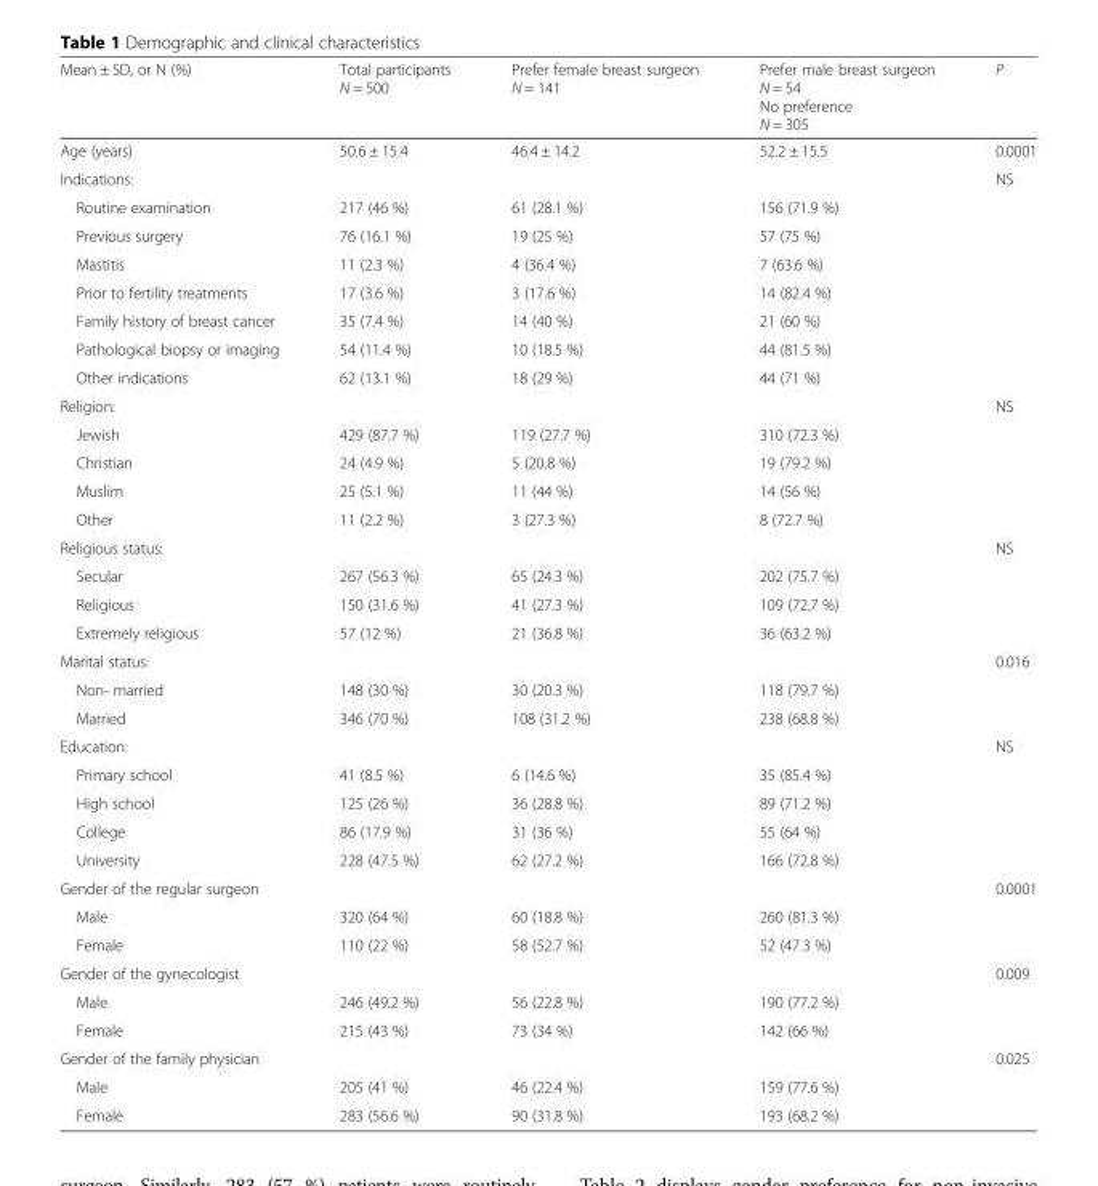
<table><thead><tr><td>Mean ± SD, or N (%)</td><td>Total participants N = 500</td><td>Prefer female breast surgeon N = 141</td><td>Prefer male breast surgeon N = 54 No preference N = 305</td><td>P</td></tr></thead><tbody><tr><td>Age (years)</td><td>50.6 ± 15.4</td><td>46.4 ± 14.2</td><td>52.2 ± 15.5</td><td>0.0001</td></tr><tr><td>Indications:</td><td></td><td></td><td></td><td>NS</td></tr><tr><td>Routine examination</td><td>217 (46 %)</td><td>61 (28.1 %)</td><td>156 (71.9 %)</td><td></td></tr><tr><td>Previous surgery</td><td>76 (16.1 %)</td><td>19 (25 %)</td><td>57 (75 %)</td><td></td></tr><tr><td>Mastitis</td><td>11 (2.3 %)</td><td>4 (36.4 %)</td><td>7 (63.6 %)</td><td></td></tr><tr><td>Prior to fertility treatments</td><td>17 (3.6 %)</td><td>3 (17.6 %)</td><td>14 (82.4 %)</td><td></td></tr><tr><td>Family history of breast cancer</td><td>35 (7.4 %)</td><td>14 (40 %)</td><td>21 (60 %)</td><td></td></tr><tr><td>Pathological biopsy or imaging</td><td>54 (11.4 %)</td><td>10 (18.5 %)</td><td>44 (81.5 %)</td><td></td></tr><tr><td>Other indications</td><td>62 (13.1 %)</td><td>18 (29 %)</td><td>44 (71 %)</td><td></td></tr><tr><td>Religion:</td><td></td><td></td><td></td><td>NS</td></tr><tr><td>Jewish</td><td>429 (87.7 %)</td><td>119 (27.7 %)</td><td>310 (72.3 %)</td><td></td></tr><tr><td>Christian</td><td>24 (4.9 %)</td><td>5 (20.8 %)</td><td>19 (79.2 %)</td><td></td></tr><tr><td>Muslim</td><td>25 (5.1 %)</td><td>11 (44 %)</td><td>14 (56 %)</td><td></td></tr><tr><td>Other</td><td>11 (2.2 %)</td><td>3 (27.3 %)</td><td>8 (72.7 %)</td><td></td></tr><tr><td>Religious status:</td><td></td><td></td><td></td><td>NS</td></tr><tr><td>Secular</td><td>267 (56.3 %)</td><td>65 (24.3 %)</td><td>202 (75.7 %)</td><td></td></tr><tr><td>Religious</td><td>150 (31.6 %)</td><td>41 (27.3 %)</td><td>109 (72.7 %)</td><td></td></tr><tr><td>Extremely religious</td><td>57 (12 %)</td><td>21 (36.8 %)</td><td>36 (63.2 %)</td><td></td></tr><tr><td>Marital status:</td><td></td><td></td><td></td><td>0.016</td></tr><tr><td>Non- married</td><td>148 (30 %)</td><td>30 (20.3 %)</td><td>118 (79.7 %)</td><td></td></tr><tr><td>Married</td><td>346 (70 %)</td><td>108 (31.2 %)</td><td>238 (68.8 %)</td><td></td></tr><tr><td>Education:</td><td></td><td></td><td></td><td>NS</td></tr><tr><td>Primary school</td><td>41 (8.5 %)</td><td>6 (14.6 %)</td><td>35 (85.4 %)</td><td></td></tr><tr><td>High school</td><td>125 (26 %)</td><td>36 (28.8 %)</td><td>89 (71.2 %)</td><td></td></tr><tr><td>College</td><td>86 (17.9 %)</td><td>31 (36 %)</td><td>55 (64 %)</td><td></td></tr><tr><td>University</td><td>228 (47.5 %)</td><td>62 (27.2 %)</td><td>166 (72.8 %)</td><td></td></tr><tr><td>Gender of the regular surgeon</td><td></td><td></td><td></td><td>0.0001</td></tr><tr><td>Male</td><td>320 (64 %)</td><td>60 (18.8 %)</td><td>260 (81.3 %)</td><td></td></tr><tr><td>Female</td><td>110 (22 %)</td><td>58 (52.7 %)</td><td>52 (47.3 %)</td><td></td></tr><tr><td>Gender of the gynecologist</td><td></td><td></td><td></td><td>0.009</td></tr><tr><td>Male</td><td>246 (49.2 %)</td><td>56 (22.8 %)</td><td>190 (77.2 %)</td><td></td></tr><tr><td>Female</td><td>215 (43 %)</td><td>73 (34 %)</td><td>142 (66 %)</td><td></td></tr><tr><td>Gender of the family physician</td><td></td><td></td><td></td><td>0.025</td></tr><tr><td>Male</td><td>205 (41 %)</td><td>46 (22.4 %)</td><td>159 (77.6 %)</td><td></td></tr><tr><td>Female</td><td>283 (56.6 %)</td><td>90 (31.8 %)</td><td>193 (68.2 %)</td><td></td></tr></tbody></table>